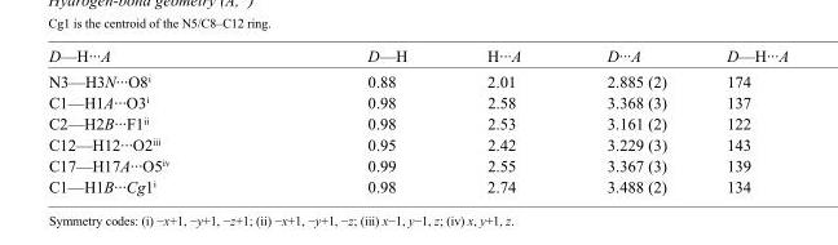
<table><tbody><tr><td>D—H···A</td><td>D—H</td><td>H···A</td><td>D···A</td><td>D—H···A</td></tr><tr><td>N3—H3N···O8<sup>i</sup></td><td>0.88</td><td>2.01</td><td>2.885 (2)</td><td>174</td></tr><tr><td>C1—H1A···O3<sup>i</sup></td><td>0.98</td><td>2.58</td><td>3.368 (3)</td><td>137</td></tr><tr><td>C2—H2B···F1<sup>ii</sup></td><td>0.98</td><td>2.53</td><td>3.161 (2)</td><td>122</td></tr><tr><td>C12—H12···O2<sup>iii</sup></td><td>0.95</td><td>2.42</td><td>3.229 (3)</td><td>143</td></tr><tr><td>C17—H17A···O5<sup>iv</sup></td><td>0.99</td><td>2.55</td><td>3.367 (3)</td><td>139</td></tr><tr><td>C1—H1B···Cg1<sup>i</sup></td><td>0.98</td><td>2.74</td><td>3.488 (2)</td><td>134</td></tr></tbody></table>